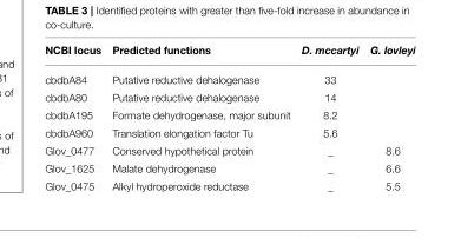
<table><thead><tr><td>NCBI locus</td><td>Predicted functions</td><td>D. mccartyi</td><td>G. lovleyi</td></tr></thead><tbody><tr><td>cbdbA84</td><td>Putative reductive dehalogenase</td><td>33</td><td></td></tr><tr><td>cbdbA80</td><td>Putative reductive dehalogenase</td><td>14</td><td></td></tr><tr><td>cbdbA195</td><td>Formate dehydrogenase, major subunit</td><td>8.2</td><td></td></tr><tr><td>cbdbA960</td><td>Translation elongation factor Tu</td><td>5.6</td><td></td></tr><tr><td>Glov_0477</td><td>Conserved hypothetical protein</td><td>–</td><td>8.6</td></tr><tr><td>Glov_1625</td><td>Malate dehydrogenase</td><td>–</td><td>6.6</td></tr><tr><td>Glov_0475</td><td>Alkyl hydroperoxide reductase</td><td>–</td><td>5.5</td></tr></tbody></table>